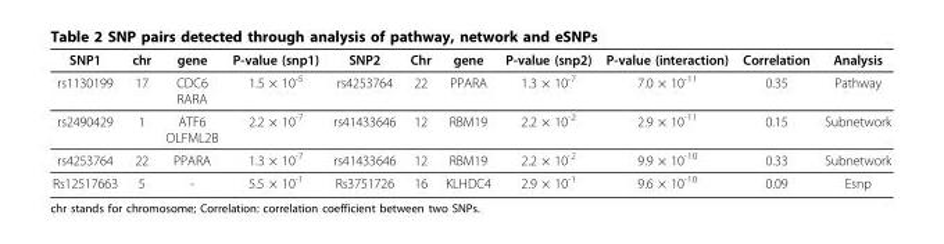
<table><thead><tr><td>SNP1</td><td>chr</td><td>gene</td><td>P-value (snp1)</td><td>SNP2</td><td>Chr</td><td>gene</td><td>P-value (snp2)</td><td>P-value (interaction)</td><td>Correlation</td><td>Analysis</td></tr></thead><tbody><tr><td>rs1130199</td><td>17</td><td>CDC6 RARA</td><td>1.5 × 10<sup>-5</sup></td><td>rs4253764</td><td>22</td><td>PPARA</td><td>1.3 × 10<sup>-7</sup></td><td>7.0 × 10<sup>-11</sup></td><td>0.35</td><td>Pathway</td></tr><tr><td>rs2490429</td><td>1</td><td>ATF6 OLFML2B</td><td>2.2 × 10<sup>-7</sup></td><td>rs41433646</td><td>12</td><td>RBM19</td><td>2.2 × 10<sup>-2</sup></td><td>2.9 × 10<sup>-11</sup></td><td>0.15</td><td>Subnetwork</td></tr><tr><td>rs4253764</td><td>22</td><td>PPARA</td><td>1.3 × 10<sup>-7</sup></td><td>rs41433646</td><td>12</td><td>RBM19</td><td>2.2 × 10<sup>-2</sup></td><td>9.9 × 10<sup>-10</sup></td><td>0.33</td><td>Subnetwork</td></tr><tr><td>Rs12517663</td><td>5</td><td>-</td><td>5.5 × 10<sup>-1</sup></td><td>Rs3751726</td><td>16</td><td>KLHDC4</td><td>2.9 × 10<sup>-1</sup></td><td>9.6 × 10<sup>-10</sup></td><td>0.09</td><td>Esnp</td></tr></tbody></table>